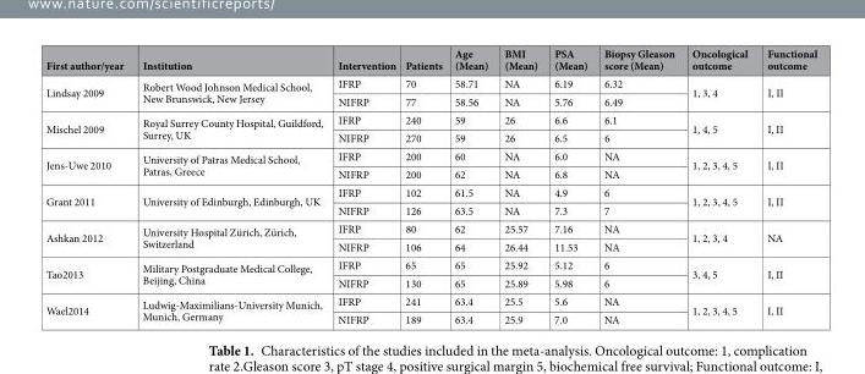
<table><thead><tr><td>First author/year</td><td>Institution</td><td>Intervention</td><td>Patients</td><td>Age (Mean)</td><td>BMI (Mean)</td><td>PSA (Mean)</td><td>Biopsy Gleason score (Mean)</td><td>Oncological outcome</td><td>Functional outcome</td></tr></thead><tbody><tr><td rowspan="2">Lindsay 2009</td><td rowspan="2">Robert Wood Johnson Medical School, New Brunswick, New Jersey</td><td>IFRP</td><td>70</td><td>58.71</td><td>NA</td><td>6.19</td><td>6.32</td><td rowspan="2">1, 3, 4</td><td rowspan="2">I, II</td></tr><tr><td>NIFRP</td><td>77</td><td>58.56</td><td>NA</td><td>5.76</td><td>6.49</td></tr><tr><td rowspan="2">Mischel 2009</td><td rowspan="2">Royal Surrey County Hospital, Guildford, Surrey, UK</td><td>IFRP</td><td>240</td><td>59</td><td>26</td><td>6.6</td><td>6.1</td><td rowspan="2">1, 4, 5</td><td rowspan="2">I, II</td></tr><tr><td>NIFRP</td><td>270</td><td>59</td><td>26</td><td>6.5</td><td>6</td></tr><tr><td rowspan="2">Jens-Uwe 2010</td><td rowspan="2">University of Patras Medical School, Patras, Greece</td><td>IFRP</td><td>200</td><td>60</td><td>NA</td><td>6.0</td><td>NA</td><td rowspan="2">1, 2, 3, 4, 5</td><td rowspan="2">I, II</td></tr><tr><td>NIFRP</td><td>200</td><td>62</td><td>NA</td><td>6.8</td><td>NA</td></tr><tr><td rowspan="2">Grant 2011</td><td rowspan="2">University of Edinburgh, Edinburgh, UK</td><td>IFRP</td><td>102</td><td>61.5</td><td>NA</td><td>4.9</td><td>6</td><td rowspan="2">1, 2, 3, 4, 5</td><td rowspan="2">I, II</td></tr><tr><td>NIFRP</td><td>126</td><td>63.5</td><td>NA</td><td>7.3</td><td>7</td></tr><tr><td rowspan="2">Ashkan 2012</td><td rowspan="2">University Hospital Zürich, Zürich, Switzerland</td><td>IFRP</td><td>80</td><td>62</td><td>25.57</td><td>7.16</td><td>NA</td><td rowspan="2">1, 2, 3, 4</td><td rowspan="2">NA</td></tr><tr><td>NIFRP</td><td>106</td><td>64</td><td>26.44</td><td>11.53</td><td>NA</td></tr><tr><td rowspan="2">Tao2013</td><td rowspan="2">Military Postgraduate Medical College, Beijing, China</td><td>IFRP</td><td>65</td><td>65</td><td>25.92</td><td>5.12</td><td>6</td><td rowspan="2">3, 4, 5</td><td rowspan="2">I, II</td></tr><tr><td>NIFRP</td><td>130</td><td>65</td><td>25.89</td><td>5.98</td><td>6</td></tr><tr><td rowspan="2">Wael2014</td><td rowspan="2">Ludwig-Maximilians-University Munich, Munich, Germany</td><td>IFRP</td><td>241</td><td>63.4</td><td>25.5</td><td>5.6</td><td>NA</td><td rowspan="2">1, 2, 3, 4, 5</td><td rowspan="2">I, II</td></tr><tr><td>NIFRP</td><td>189</td><td>63.4</td><td>25.9</td><td>7.0</td><td>NA</td></tr></tbody></table>